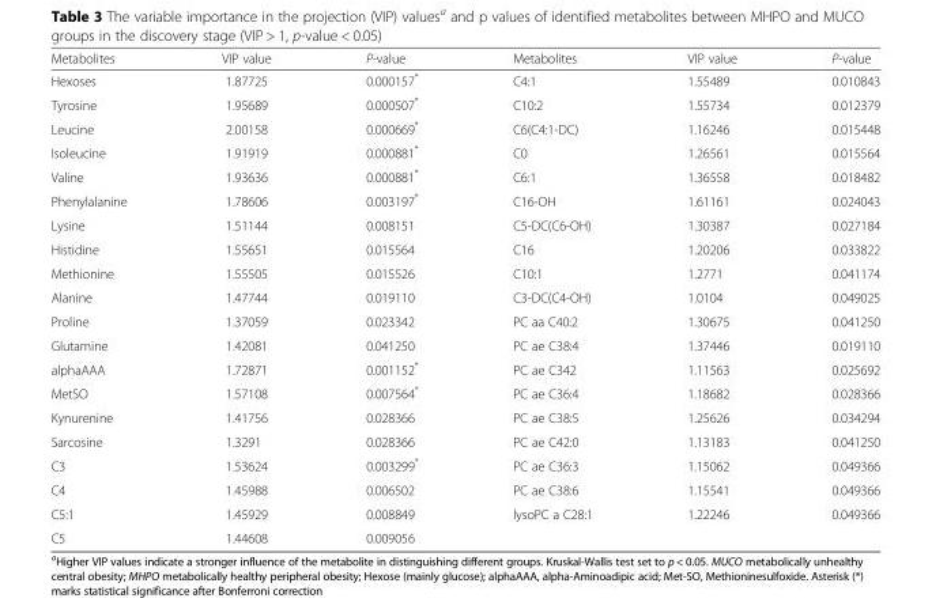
<table><thead><tr><td>Metabolites</td><td>VIP value</td><td>P-value</td><td>Metabolites</td><td>VIP value</td><td>P-value</td></tr></thead><tbody><tr><td>Hexoses</td><td>1.87725</td><td>0.000157*</td><td>C4:1</td><td>1.55489</td><td>0.010843</td></tr><tr><td>Tyrosine</td><td>1.95689</td><td>0.000507*</td><td>C10:2</td><td>1.55734</td><td>0.012379</td></tr><tr><td>Leucine</td><td>2.00158</td><td>0.000669*</td><td>C6(C4:1-DC)</td><td>1.16246</td><td>0.015448</td></tr><tr><td>Isoleucine</td><td>1.91919</td><td>0.000881*</td><td>C0</td><td>1.26561</td><td>0.015564</td></tr><tr><td>Valine</td><td>1.93636</td><td>0.000881*</td><td>C6:1</td><td>1.36558</td><td>0.018482</td></tr><tr><td>Phenylalanine</td><td>1.78606</td><td>0.003197*</td><td>C16-OH</td><td>1.61161</td><td>0.024043</td></tr><tr><td>Lysine</td><td>1.51144</td><td>0.008151</td><td>C5-DC(C6-OH)</td><td>1.30387</td><td>0.027184</td></tr><tr><td>Histidine</td><td>1.55651</td><td>0.015564</td><td>C16</td><td>1.20206</td><td>0.033822</td></tr><tr><td>Methionine</td><td>1.55505</td><td>0.015526</td><td>C10:1</td><td>1.2771</td><td>0.041174</td></tr><tr><td>Alanine</td><td>1.47744</td><td>0.019110</td><td>C3-DC(C4-OH)</td><td>1.0104</td><td>0.049025</td></tr><tr><td>Proline</td><td>1.37059</td><td>0.023342</td><td>PC aa C40:2</td><td>1.30675</td><td>0.041250</td></tr><tr><td>Glutamine</td><td>1.42081</td><td>0.041250</td><td>PC ae C38:4</td><td>1.37446</td><td>0.019110</td></tr><tr><td>alphaAAA</td><td>1.72871</td><td>0.001152*</td><td>PC ae C342</td><td>1.11563</td><td>0.025692</td></tr><tr><td>MetSO</td><td>1.57108</td><td>0.007564*</td><td>PC ae C36:4</td><td>1.18682</td><td>0.028366</td></tr><tr><td>Kynurenine</td><td>1.41756</td><td>0.028366</td><td>PC ae C38:5</td><td>1.25626</td><td>0.034294</td></tr><tr><td>Sarcosine</td><td>1.3291</td><td>0.028366</td><td>PC ae C42:0</td><td>1.13183</td><td>0.041250</td></tr><tr><td>C3</td><td>1.53624</td><td>0.003299*</td><td>PC ae C36:3</td><td>1.15062</td><td>0.049366</td></tr><tr><td>C4</td><td>1.45988</td><td>0.006502</td><td>PC ae C38:6</td><td>1.15541</td><td>0.049366</td></tr><tr><td>C5:1</td><td>1.45929</td><td>0.008849</td><td>lysoPC a C28:1</td><td>1.22246</td><td>0.049366</td></tr><tr><td>C5</td><td>1.44608</td><td>0.009056</td><td></td><td></td><td></td></tr></tbody></table>